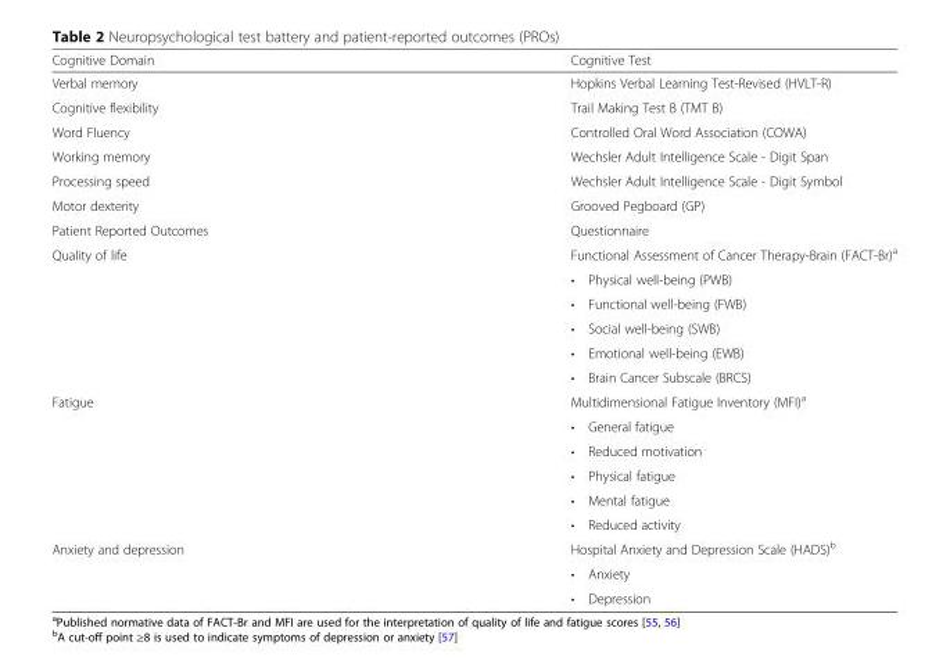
<table><thead><tr><td>Cognitive Domain</td><td>Cognitive Test</td></tr></thead><tbody><tr><td>Verbal memory</td><td>Hopkins Verbal Learning Test-Revised (HVLT-R)</td></tr><tr><td>Cognitive flexibility</td><td>Trail Making Test B (TMT B)</td></tr><tr><td>Word Fluency</td><td>Controlled Oral Word Association (COWA)</td></tr><tr><td>Working memory</td><td>Wechsler Adult Intelligence Scale - Digit Span</td></tr><tr><td>Processing speed</td><td>Wechsler Adult Intelligence Scale - Digit Symbol</td></tr><tr><td>Motor dexterity</td><td>Grooved Pegboard (GP)</td></tr><tr><td>Patient Reported Outcomes</td><td>Questionnaire</td></tr><tr><td rowspan="6">Quality of life</td><td>Functional Assessment of Cancer Therapy-Brain (FACT-Br)<sup>a</sup></td></tr><tr><td>• Physical well-being (PWB)</td></tr><tr><td>• Functional well-being (FWB)</td></tr><tr><td>• Social well-being (SWB)</td></tr><tr><td>• Emotional well-being (EWB)</td></tr><tr><td>• Brain Cancer Subscale (BRCS)</td></tr><tr><td rowspan="6">Fatigue</td><td>Multidimensional Fatigue Inventory (MFI)<sup>a</sup></td></tr><tr><td>• General fatigue</td></tr><tr><td>• Reduced motivation</td></tr><tr><td>• Physical fatigue</td></tr><tr><td>• Mental fatigue</td></tr><tr><td>• Reduced activity</td></tr><tr><td rowspan="3">Anxiety and depression</td><td>Hospital Anxiety and Depression Scale (HADS)<sup>b</sup></td></tr><tr><td>• Anxiety</td></tr><tr><td>• Depression</td></tr></tbody></table>